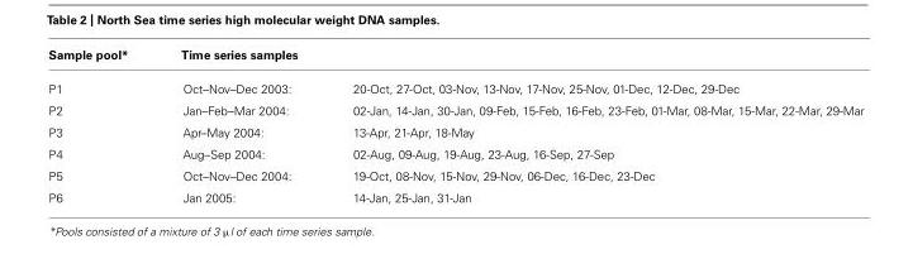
<table><thead><tr><td>Sample pool*</td><td>Time series samples</td><td></td></tr></thead><tbody><tr><td>P1</td><td>Oct–Nov–Dec 2003:</td><td>20-Oct, 27-Oct, 03-Nov, 13-Nov, 17-Nov, 25-Nov, 01-Dec, 12-Dec, 29-Dec</td></tr><tr><td>P2</td><td>Jan–Feb–Mar 2004:</td><td>02-Jan, 14-Jan, 30-Jan, 09-Feb, 15-Feb, 16-Feb, 23-Feb, 01-Mar, 08-Mar, 15-Mar, 22-Mar, 29-Mar</td></tr><tr><td>P3</td><td>Apr–May 2004:</td><td>13-Apr, 21-Apr, 18-May</td></tr><tr><td>P4</td><td>Aug–Sep 2004:</td><td>02-Aug, 09-Aug, 19-Aug, 23-Aug, 16-Sep, 27-Sep</td></tr><tr><td>P5</td><td>Oct–Nov–Dec 2004:</td><td>19-Oct, 08-Nov, 15-Nov, 29-Nov, 06-Dec, 16-Dec, 23-Dec</td></tr><tr><td>P6</td><td>Jan 2005:</td><td>14-Jan, 25-Jan, 31-Jan</td></tr></tbody></table>